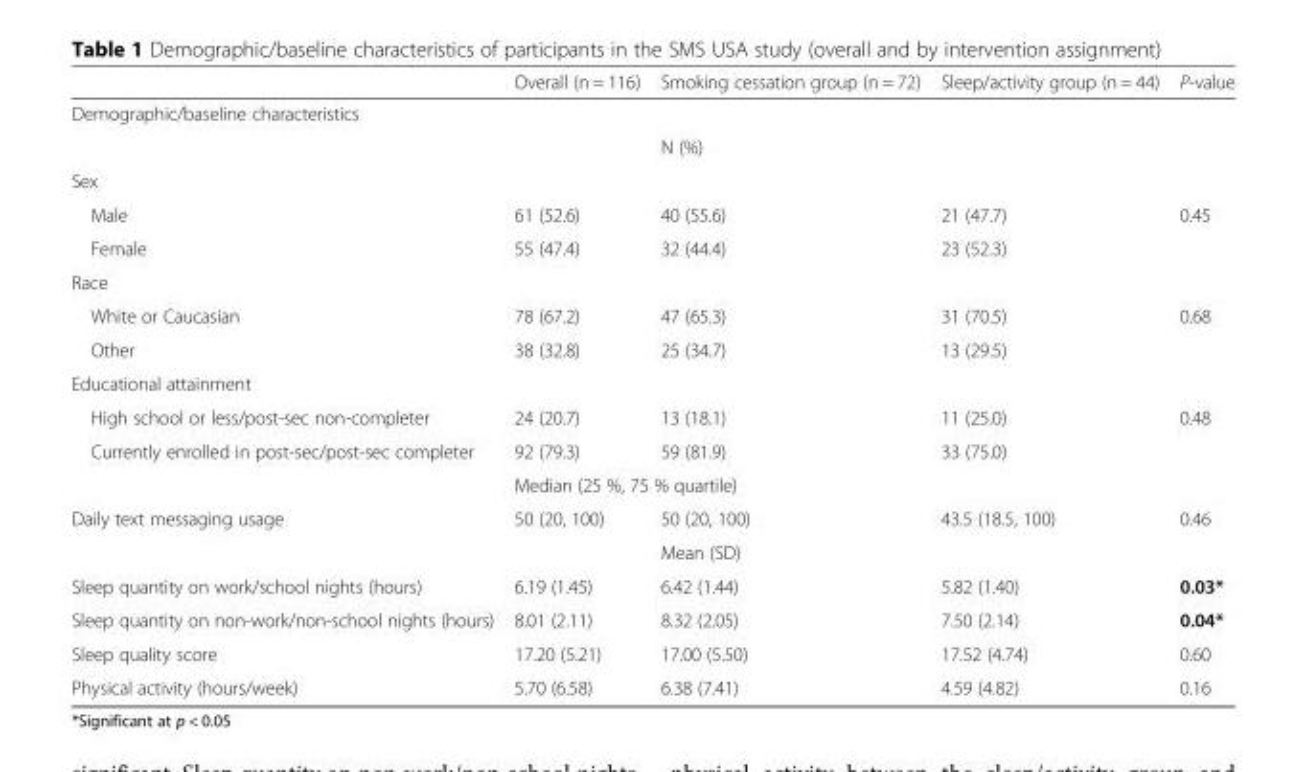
<table><thead><tr><td></td><td>Overall (n = 116)</td><td>Smoking cessation group (n = 72)</td><td>Sleep/activity group (n = 44)</td><td>P-value</td></tr></thead><tbody><tr><td colspan="5">Demographic/baseline characteristics</td></tr><tr><td></td><td></td><td>N (%)</td><td></td><td></td></tr><tr><td colspan="5">Sex</td></tr><tr><td>Male</td><td>61 (52.6)</td><td>40 (55.6)</td><td>21 (47.7)</td><td rowspan="2">0.45</td></tr><tr><td>Female</td><td>55 (47.4)</td><td>32 (44.4)</td><td>23 (52.3)</td></tr><tr><td colspan="5">Race</td></tr><tr><td>White or Caucasian</td><td>78 (67.2)</td><td>47 (65.3)</td><td>31 (70.5)</td><td rowspan="2">0.68</td></tr><tr><td>Other</td><td>38 (32.8)</td><td>25 (34.7)</td><td>13 (29.5)</td></tr><tr><td colspan="5">Educational attainment</td></tr><tr><td>High school or less/post-sec non-completer</td><td>24 (20.7)</td><td>13 (18.1)</td><td>11 (25.0)</td><td rowspan="2">0.48</td></tr><tr><td rowspan="2">Currently enrolled in post-sec/post-sec completer</td><td>92 (79.3)</td><td>59 (81.9)</td><td>33 (75.0)</td></tr><tr><td colspan="3">Median (25 %, 75 % quartile)</td><td></td></tr><tr><td rowspan="2">Daily text messaging usage</td><td>50 (20, 100)</td><td>50 (20, 100)</td><td>43.5 (18.5, 100)</td><td>0.46</td></tr><tr><td></td><td>Mean (SD)</td><td></td><td></td></tr><tr><td>Sleep quantity on work/school nights (hours)</td><td>6.19 (1.45)</td><td>6.42 (1.44)</td><td>5.82 (1.40)</td><td>0.03*</td></tr><tr><td>Sleep quantity on non-work/non-school nights (hours)</td><td>8.01 (2.11)</td><td>8.32 (2.05)</td><td>7.50 (2.14)</td><td>0.04*</td></tr><tr><td>Sleep quality score</td><td>17.20 (5.21)</td><td>17.00 (5.50)</td><td>17.52 (4.74)</td><td>0.60</td></tr><tr><td>Physical activity (hours/week)</td><td>5.70 (6.58)</td><td>6.38 (7.41)</td><td>4.59 (4.82)</td><td>0.16</td></tr></tbody></table>